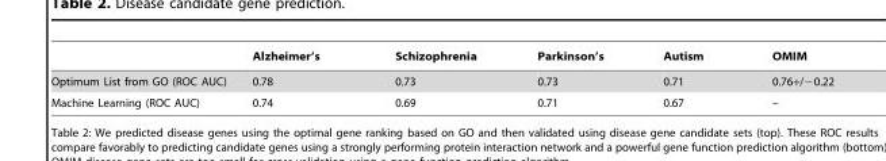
<table><thead><tr><td></td><td>Alzheimer’s</td><td>Schizophrenia</td><td>Parkinson’s</td><td>Autism</td><td>OMIM</td></tr></thead><tbody><tr><td>Optimum List from GO (ROC AUC)</td><td>0.78</td><td>0.73</td><td>0.73</td><td>0.71</td><td>0.76+/−0.22</td></tr><tr><td>Machine Learning (ROC AUC)</td><td>0.74</td><td>0.69</td><td>0.71</td><td>0.67</td><td>–</td></tr></tbody></table>